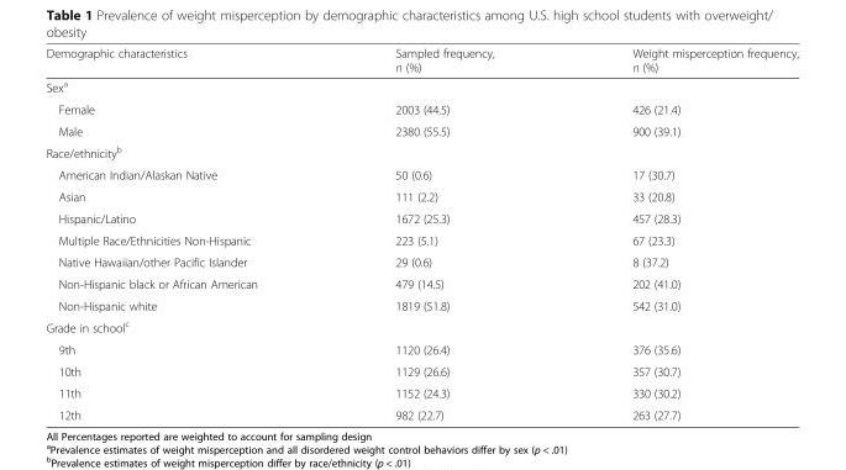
<table><thead><tr><td>Demographic characteristics</td><td>Sampled frequency, n (%)</td><td>Weight misperception frequency, n (%)</td></tr></thead><tbody><tr><td colspan="3">Sex<sup>a</sup></td></tr><tr><td>Female</td><td>2003 (44.5)</td><td>426 (21.4)</td></tr><tr><td>Male</td><td>2380 (55.5)</td><td>900 (39.1)</td></tr><tr><td colspan="3">Race/ethnicity<sup>b</sup></td></tr><tr><td>American Indian/Alaskan Native</td><td>50 (0.6)</td><td>17 (30.7)</td></tr><tr><td>Asian</td><td>111 (2.2)</td><td>33 (20.8)</td></tr><tr><td>Hispanic/Latino</td><td>1672 (25.3)</td><td>457 (28.3)</td></tr><tr><td>Multiple Race/Ethnicities Non-Hispanic</td><td>223 (5.1)</td><td>67 (23.3)</td></tr><tr><td>Native Hawaiian/other Pacific Islander</td><td>29 (0.6)</td><td>8 (37.2)</td></tr><tr><td>Non-Hispanic black or African American</td><td>479 (14.5)</td><td>202 (41.0)</td></tr><tr><td>Non-Hispanic white</td><td>1819 (51.8)</td><td>542 (31.0)</td></tr><tr><td colspan="3">Grade in school<sup>c</sup></td></tr><tr><td>9th</td><td>1120 (26.4)</td><td>376 (35.6)</td></tr><tr><td>10th</td><td>1129 (26.6)</td><td>357 (30.7)</td></tr><tr><td>11th</td><td>1152 (24.3)</td><td>330 (30.2)</td></tr><tr><td>12th</td><td>982 (22.7)</td><td>263 (27.7)</td></tr></tbody></table>